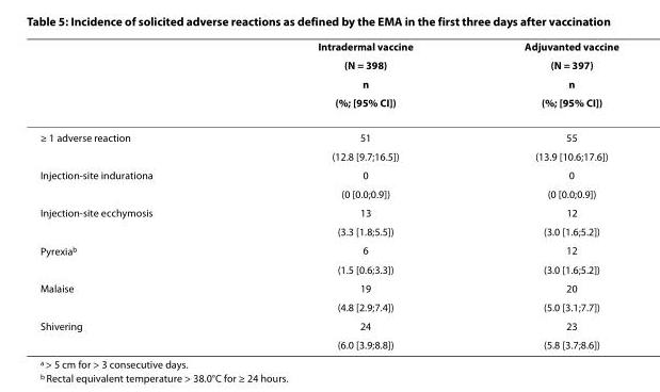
<table><thead><tr><td rowspan="4"></td><td rowspan="4">Intradermal vaccine (N = 398) n (%; [95% CI])</td><td rowspan="4">Adjuvanted vaccine (N = 397) n (%; [95% CI])</td></tr><tr></tr><tr></tr><tr></tr></thead><tbody><tr><td rowspan="2">≥ 1 adverse reaction</td><td>51</td><td>55</td></tr><tr><td>(12.8 [9.7;16.5])</td><td>(13.9 [10.6;17.6])</td></tr><tr><td rowspan="2">Injection-site indurationa</td><td>0</td><td>0</td></tr><tr><td>(0 [0.0;0.9])</td><td>(0 [0.0;0.9])</td></tr><tr><td rowspan="2">Injection-site ecchymosis</td><td>13</td><td>12</td></tr><tr><td>(3.3 [1.8;5.5])</td><td>(3.0 [1.6;5.2])</td></tr><tr><td rowspan="2">Pyrexia<sup>b</sup></td><td>6</td><td>12</td></tr><tr><td>(1.5 [0.6;3.3])</td><td>(3.0 [1.6;5.2])</td></tr><tr><td rowspan="2">Malaise</td><td>19</td><td>20</td></tr><tr><td>(4.8 [2.9;7.4])</td><td>(5.0 [3.1;7.7])</td></tr><tr><td rowspan="2">Shivering</td><td>24</td><td>23</td></tr><tr><td>(6.0 [3.9;8.8])</td><td>(5.8 [3.7;8.6])</td></tr></tbody></table>